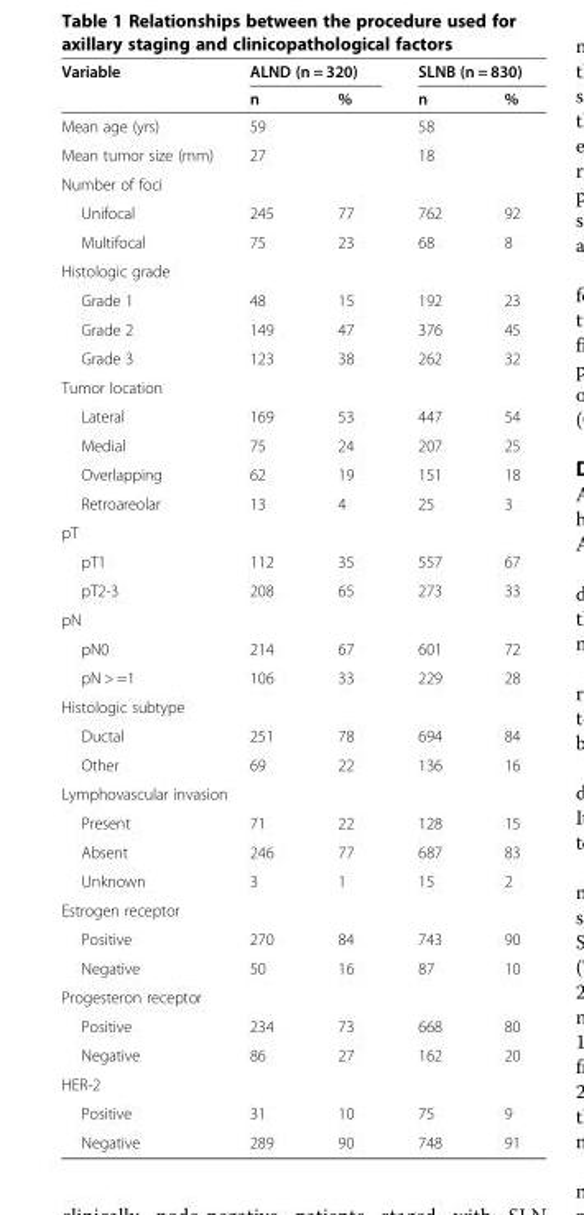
<table><thead><tr><td rowspan="2">Variable</td><td colspan="2">ALND (n = 320)</td><td colspan="2">SLNB (n = 830)</td></tr><tr><td>n</td><td>%</td><td>n</td><td>%</td></tr></thead><tbody><tr><td>Mean age (yrs)</td><td>59</td><td></td><td>58</td><td></td></tr><tr><td>Mean tumor size (mm)</td><td>27</td><td></td><td>18</td><td></td></tr><tr><td colspan="5">Number of foci</td></tr><tr><td>Unifocal</td><td>245</td><td>77</td><td>762</td><td>92</td></tr><tr><td>Multifocal</td><td>75</td><td>23</td><td>68</td><td>8</td></tr><tr><td colspan="5">Histologic grade</td></tr><tr><td>Grade 1</td><td>48</td><td>15</td><td>192</td><td>23</td></tr><tr><td>Grade 2</td><td>149</td><td>47</td><td>376</td><td>45</td></tr><tr><td>Grade 3</td><td>123</td><td>38</td><td>262</td><td>32</td></tr><tr><td colspan="5">Tumor location</td></tr><tr><td>Lateral</td><td>169</td><td>53</td><td>447</td><td>54</td></tr><tr><td>Medial</td><td>75</td><td>24</td><td>207</td><td>25</td></tr><tr><td>Overlapping</td><td>62</td><td>19</td><td>151</td><td>18</td></tr><tr><td>Retroareolar</td><td>13</td><td>4</td><td>25</td><td>3</td></tr><tr><td colspan="5">pT</td></tr><tr><td>pT1</td><td>112</td><td>35</td><td>557</td><td>67</td></tr><tr><td>pT2-3</td><td>208</td><td>65</td><td>273</td><td>33</td></tr><tr><td colspan="5">pN</td></tr><tr><td>pN0</td><td>214</td><td>67</td><td>601</td><td>72</td></tr><tr><td>pN &gt; =1</td><td>106</td><td>33</td><td>229</td><td>28</td></tr><tr><td colspan="5">Histologic subtype</td></tr><tr><td>Ductal</td><td>251</td><td>78</td><td>694</td><td>84</td></tr><tr><td>Other</td><td>69</td><td>22</td><td>136</td><td>16</td></tr><tr><td colspan="5">Lymphovascular invasion</td></tr><tr><td>Present</td><td>71</td><td>22</td><td>128</td><td>15</td></tr><tr><td>Absent</td><td>246</td><td>77</td><td>687</td><td>83</td></tr><tr><td>Unknown</td><td>3</td><td>1</td><td>15</td><td>2</td></tr><tr><td colspan="5">Estrogen receptor</td></tr><tr><td>Positive</td><td>270</td><td>84</td><td>743</td><td>90</td></tr><tr><td>Negative</td><td>50</td><td>16</td><td>87</td><td>10</td></tr><tr><td colspan="5">Progesteron receptor</td></tr><tr><td>Positive</td><td>234</td><td>73</td><td>668</td><td>80</td></tr><tr><td>Negative</td><td>86</td><td>27</td><td>162</td><td>20</td></tr><tr><td colspan="5">HER-2</td></tr><tr><td>Positive</td><td>31</td><td>10</td><td>75</td><td>9</td></tr><tr><td>Negative</td><td>289</td><td>90</td><td>748</td><td>91</td></tr></tbody></table>